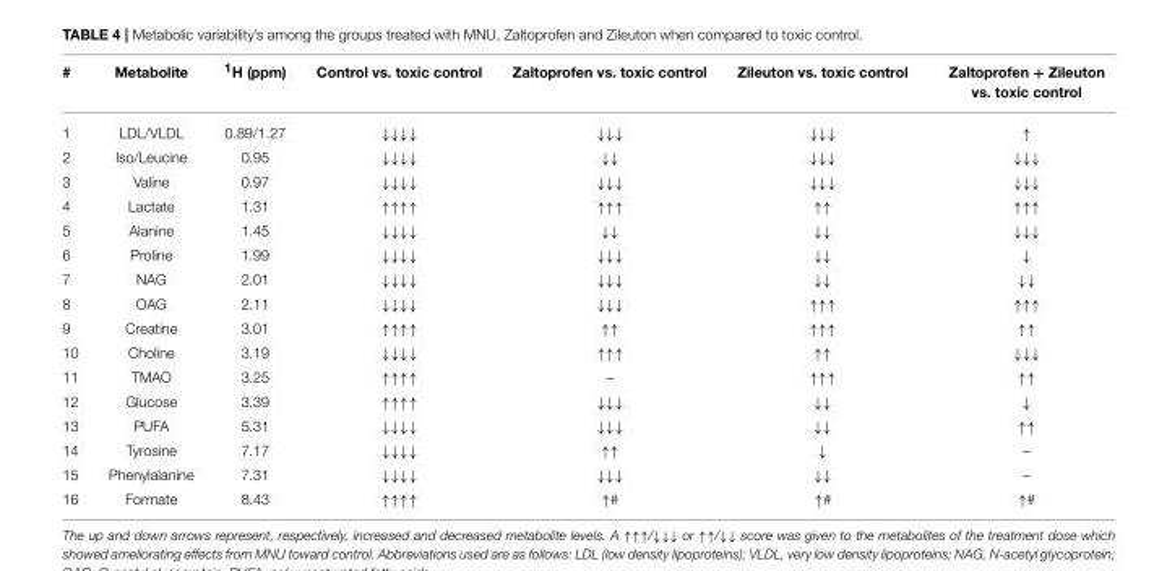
<table><thead><tr><td>#</td><td>Metabolite</td><td><sup>1</sup>H (ppm)</td><td>Control vs. toxic control</td><td>Zaltoprofen vs. toxic control</td><td>Zileuton vs. toxic control</td><td>Zaltoprofen + Zileuton vs. toxic control</td></tr></thead><tbody><tr><td>1</td><td>LDL/VLDL</td><td>0.89/1.27</td><td>↓↓↓↓</td><td>↓↓↓</td><td>↓↓↓</td><td>↑</td></tr><tr><td>2</td><td>Iso/Leucine</td><td>0.95</td><td>↓↓↓↓</td><td>↓↓</td><td>↓↓↓</td><td>↓↓↓</td></tr><tr><td>3</td><td>Valine</td><td>0.97</td><td>↓↓↓↓</td><td>↓↓↓</td><td>↓↓↓</td><td>↓↓↓</td></tr><tr><td>4</td><td>Lactate</td><td>1.31</td><td>↑↑↑↑</td><td>↑↑↑</td><td>↑↑</td><td>↑↑↑</td></tr><tr><td>5</td><td>Alanine</td><td>1.45</td><td>↓↓↓↓</td><td>↓↓</td><td>↓↓</td><td>↓↓↓</td></tr><tr><td>6</td><td>Proline</td><td>1.99</td><td>↓↓↓↓</td><td>↓↓↓</td><td>↓↓</td><td>↓</td></tr><tr><td>7</td><td>NAG</td><td>2.01</td><td>↓↓↓↓</td><td>↓↓↓</td><td>↓↓</td><td>↓↓</td></tr><tr><td>8</td><td>OAG</td><td>2.11</td><td>↓↓↓↓</td><td>↓↓↓</td><td>↑↑↑</td><td>↑↑↑</td></tr><tr><td>9</td><td>Creatine</td><td>3.01</td><td>↑↑↑↑</td><td>↑↑</td><td>↑↑↑</td><td>↑↑</td></tr><tr><td>10</td><td>Choline</td><td>3.19</td><td>↓↓↓↓</td><td>↑↑↑</td><td>↑↑</td><td>↓↓↓</td></tr><tr><td>11</td><td>TMAO</td><td>3.25</td><td>↑↑↑↑</td><td>–</td><td>↑↑↑</td><td>↑↑</td></tr><tr><td>12</td><td>Glucose</td><td>3.39</td><td>↑↑↑↑</td><td>↓↓↓</td><td>↓↓</td><td>↓</td></tr><tr><td>13</td><td>PUFA</td><td>5.31</td><td>↓↓↓↓</td><td>↓↓↓</td><td>↓↓</td><td>↑↑</td></tr><tr><td>14</td><td>Tyrosine</td><td>7.17</td><td>↓↓↓↓</td><td>↑↑</td><td>↓</td><td>–</td></tr><tr><td>15</td><td>Phenylalanine</td><td>7.31</td><td>↓↓↓↓</td><td>↓↓↓</td><td>↓↓</td><td>–</td></tr><tr><td>16</td><td>Formate</td><td>8.43</td><td>↑↑↑↑</td><td>↑#</td><td>↑#</td><td>↑#</td></tr></tbody></table>